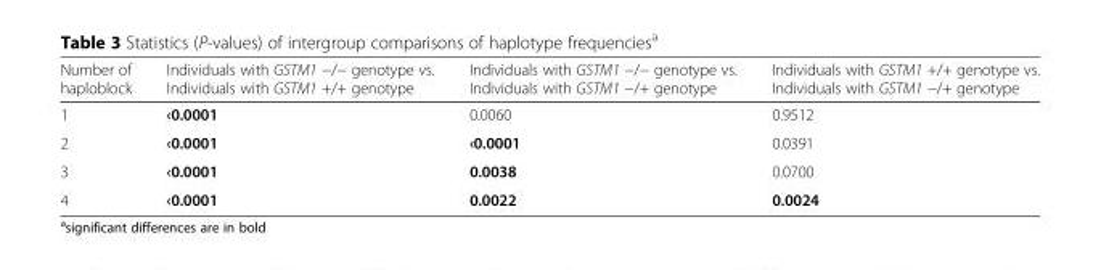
<table><thead><tr><td>Number of haploblock</td><td>Individuals with GSTM1 −/− genotype vs. Individuals with GSTM1 +/+ genotype</td><td>Individuals with GSTM1 −/− genotype vs. Individuals with GSTM1 −/+ genotype</td><td>Individuals with GSTM1 +/+ genotype vs. Individuals with GSTM1 −/+ genotype</td></tr></thead><tbody><tr><td>1</td><td>‹0.0001</td><td>0.0060</td><td>0.9512</td></tr><tr><td>2</td><td>‹0.0001</td><td>‹0.0001</td><td>0.0391</td></tr><tr><td>3</td><td>‹0.0001</td><td>0.0038</td><td>0.0700</td></tr><tr><td>4</td><td>‹0.0001</td><td>0.0022</td><td>0.0024</td></tr></tbody></table>